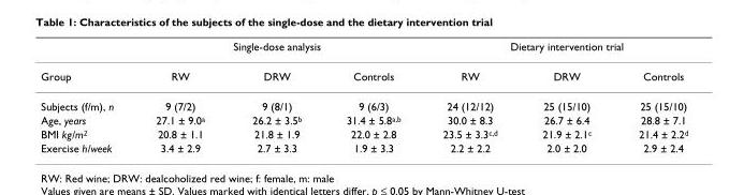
<table><thead><tr><td rowspan="2">Group</td><td colspan="3">Single-dose analysis</td><td colspan="3">Dietary intervention trial</td></tr><tr><td>RW</td><td>DRW</td><td>Controls</td><td>RW</td><td>DRW</td><td>Controls</td></tr></thead><tbody><tr><td>Subjects (f/m), n</td><td>9 (7/2)</td><td>9 (8/1)</td><td>9 (6/3)</td><td>24 (12/12)</td><td>25 (15/10)</td><td>25 (15/10)</td></tr><tr><td>Age, years</td><td>27.1 ± 9.0<sup>a</sup></td><td>26.2 ± 3.5<sup>b</sup></td><td>31.4 ± 5.8<sup>a,b</sup></td><td>30.0 ± 8.3</td><td>26.7 ± 6.4</td><td>28.8 ± 7.1</td></tr><tr><td>BMI kg/m<sup>2</sup></td><td>20.8 ± 1.1</td><td>21.8 ± 1.9</td><td>22.0 ± 2.8</td><td>23.5 ± 3.3<sup>c,d</sup></td><td>21.9 ± 2.1<sup>c</sup></td><td>21.4 ± 2.2<sup>d</sup></td></tr><tr><td>Exercise h/week</td><td>3.4 ± 2.9</td><td>2.7 ± 3.3</td><td>1.9 ± 3.3</td><td>2.2 ± 2.2</td><td>2.0 ± 2.0</td><td>2.9 ± 2.4</td></tr></tbody></table>